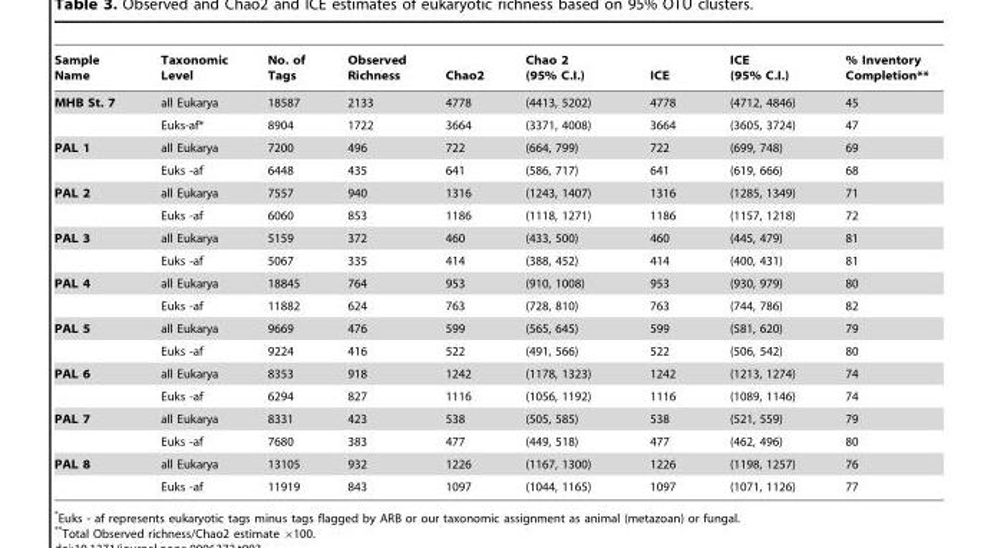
<table><thead><tr><td>Sample Name</td><td>Taxonomic Level</td><td>No. of Tags</td><td>Observed Richness</td><td>Chao2</td><td>Chao 2 (95% C.I.)</td><td>ICE</td><td>ICE (95% C.I.)</td><td>% Inventory Completion**</td></tr></thead><tbody><tr><td rowspan="2">MHB St. 7</td><td>all Eukarya</td><td>18587</td><td>2133</td><td>4778</td><td>(4413, 5202)</td><td>4778</td><td>(4712, 4846)</td><td>45</td></tr><tr><td>Euks-af*</td><td>8904</td><td>1722</td><td>3664</td><td>(3371, 4008)</td><td>3664</td><td>(3605, 3724)</td><td>47</td></tr><tr><td rowspan="2">PAL 1</td><td>all Eukarya</td><td>7200</td><td>496</td><td>722</td><td>(664, 799)</td><td>722</td><td>(699, 748)</td><td>69</td></tr><tr><td>Euks -af</td><td>6448</td><td>435</td><td>641</td><td>(586, 717)</td><td>641</td><td>(619, 666)</td><td>68</td></tr><tr><td rowspan="2">PAL 2</td><td>all Eukarya</td><td>7557</td><td>940</td><td>1316</td><td>(1243, 1407)</td><td>1316</td><td>(1285, 1349)</td><td>71</td></tr><tr><td>Euks -af</td><td>6060</td><td>853</td><td>1186</td><td>(1118, 1271)</td><td>1186</td><td>(1157, 1218)</td><td>72</td></tr><tr><td rowspan="2">PAL 3</td><td>all Eukarya</td><td>5159</td><td>372</td><td>460</td><td>(433, 500)</td><td>460</td><td>(445, 479)</td><td>81</td></tr><tr><td>Euks -af</td><td>5067</td><td>335</td><td>414</td><td>(388, 452)</td><td>414</td><td>(400, 431)</td><td>81</td></tr><tr><td rowspan="2">PAL 4</td><td>all Eukarya</td><td>18845</td><td>764</td><td>953</td><td>(910, 1008)</td><td>953</td><td>(930, 979)</td><td>80</td></tr><tr><td>Euks -af</td><td>11882</td><td>624</td><td>763</td><td>(728, 810)</td><td>763</td><td>(744, 786)</td><td>82</td></tr><tr><td rowspan="2">PAL 5</td><td>all Eukarya</td><td>9669</td><td>476</td><td>599</td><td>(565, 645)</td><td>599</td><td>(581, 620)</td><td>79</td></tr><tr><td>Euks -af</td><td>9224</td><td>416</td><td>522</td><td>(491, 566)</td><td>522</td><td>(506, 542)</td><td>80</td></tr><tr><td rowspan="2">PAL 6</td><td>all Eukarya</td><td>8353</td><td>918</td><td>1242</td><td>(1178, 1323)</td><td>1242</td><td>(1213, 1274)</td><td>74</td></tr><tr><td>Euks -af</td><td>6294</td><td>827</td><td>1116</td><td>(1056, 1192)</td><td>1116</td><td>(1089, 1146)</td><td>74</td></tr><tr><td rowspan="2">PAL 7</td><td>all Eukarya</td><td>8331</td><td>423</td><td>538</td><td>(505, 585)</td><td>538</td><td>(521, 559)</td><td>79</td></tr><tr><td>Euks -af</td><td>7680</td><td>383</td><td>477</td><td>(449, 518)</td><td>477</td><td>(462, 496)</td><td>80</td></tr><tr><td rowspan="2">PAL 8</td><td>all Eukarya</td><td>13105</td><td>932</td><td>1226</td><td>(1167, 1300)</td><td>1226</td><td>(1198, 1257)</td><td>76</td></tr><tr><td>Euks -af</td><td>11919</td><td>843</td><td>1097</td><td>(1044, 1165)</td><td>1097</td><td>(1071, 1126)</td><td>77</td></tr></tbody></table>